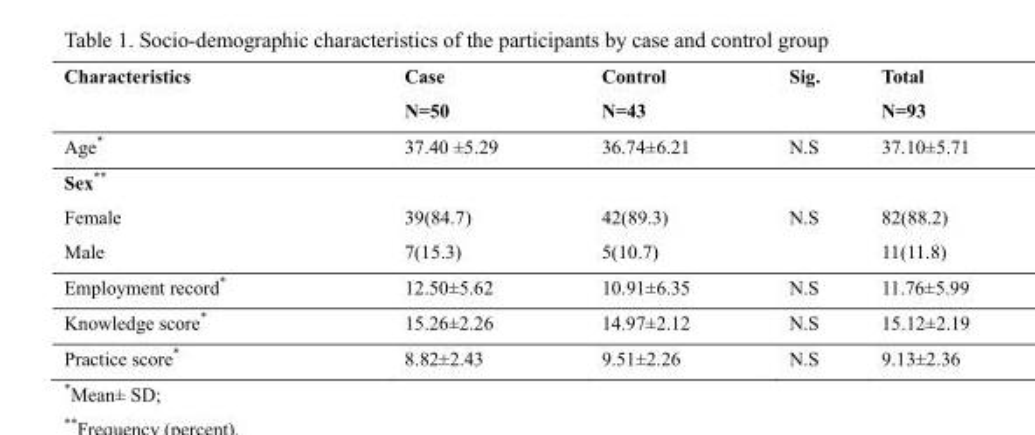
<table><thead><tr><td>Characteristics</td><td>Case N=50</td><td>Control N=43</td><td>Sig.</td><td>Total N=93</td></tr></thead><tbody><tr><td>Age*</td><td>37.40 ±5.29</td><td>36.74±6.21</td><td>N.S</td><td>37.10±5.71</td></tr><tr><td colspan="5">Sex**</td></tr><tr><td>Female</td><td>39(84.7)</td><td>42(89.3)</td><td>N.S</td><td>82(88.2)</td></tr><tr><td>Male</td><td>7(15.3)</td><td>5(10.7)</td><td></td><td>11(11.8)</td></tr><tr><td>Employment record*</td><td>12.50±5.62</td><td>10.91±6.35</td><td>N.S</td><td>11.76±5.99</td></tr><tr><td>Knowledge score*</td><td>15.26±2.26</td><td>14.97±2.12</td><td>N.S</td><td>15.12±2.19</td></tr><tr><td>Practice score*</td><td>8.82±2.43</td><td>9.51±2.26</td><td>N.S</td><td>9.13±2.36</td></tr></tbody></table>